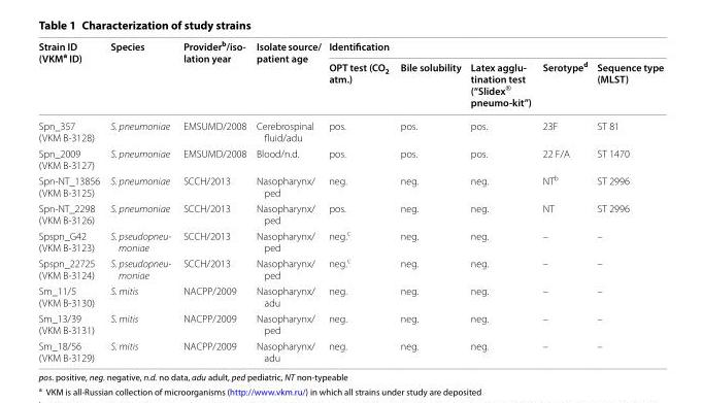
<table><thead><tr><td rowspan="2">Strain ID (VKM<sup>a</sup> ID)</td><td rowspan="2">Species</td><td rowspan="2">Providerb/iso- lation year</td><td rowspan="2">Isolate source/ patient age</td><td colspan="5">Identification</td></tr><tr><td>OPT test (CO<sub>2</sub> atm.)</td><td>Bile solubility</td><td>Latex agglu- tination test (“Slidex® pneumo-kit”)</td><td>Serotype<sup>d</sup></td><td>Sequence type (MLST)</td></tr></thead><tbody><tr><td>Spn_357 (VKM B-3128)</td><td>S. pneumoniae</td><td>EMSUMD/2008</td><td>Cerebrospinal fluid/adu</td><td>pos.</td><td>pos.</td><td>pos.</td><td>23F</td><td>ST 81</td></tr><tr><td>Spn_2009 (VKM B-3127)</td><td>S. pneumoniae</td><td>EMSUMD/2008</td><td>Blood/n.d.</td><td>pos.</td><td>pos.</td><td>pos.</td><td>22 F/A</td><td>ST 1470</td></tr><tr><td>Spn-NT_13856 (VKM B-3125)</td><td>S. pneumoniae</td><td>SCCH/2013</td><td>Nasopharynx/ ped</td><td>neg.</td><td>neg.</td><td>neg.</td><td>NT<sup>b</sup></td><td>ST 2996</td></tr><tr><td>Spn-NT_2298 (VKM B-3126)</td><td>S. pneumoniae</td><td>SCCH/2013</td><td>Nasopharynx/ ped</td><td>pos.</td><td>neg.</td><td>neg.</td><td>NT</td><td>ST 2996</td></tr><tr><td>Spspn_G42 (VKM B-3123)</td><td>S. pseudopneu- moniae</td><td>SCCH/2013</td><td>Nasopharynx/ ped</td><td>neg.<sup>c</sup></td><td>neg.</td><td>neg.</td><td>–</td><td>–</td></tr><tr><td>Spspn_22725 (VKM B-3124)</td><td>S. pseudopneu- moniae</td><td>SCCH/2013</td><td>Nasopharynx/ ped</td><td>neg.<sup>c</sup></td><td>neg.</td><td>neg.</td><td>–</td><td>–</td></tr><tr><td>Sm_11/5 (VKM B-3130)</td><td>S. mitis</td><td>NACPP/2009</td><td>Nasopharynx/ adu</td><td>neg.</td><td>neg.</td><td>neg.</td><td>–</td><td>–</td></tr><tr><td>Sm_13/39 (VKM B-3131)</td><td>S. mitis</td><td>NACPP/2009</td><td>Nasopharynx/ ped</td><td>neg.</td><td>neg.</td><td>neg.</td><td>–</td><td>–</td></tr><tr><td>Sm_18/56 (VKM B-3129)</td><td>S. mitis</td><td>NACPP/2009</td><td>Nasopharynx/ adu</td><td>neg.</td><td>neg.</td><td>neg.</td><td>–</td><td>–</td></tr></tbody></table>